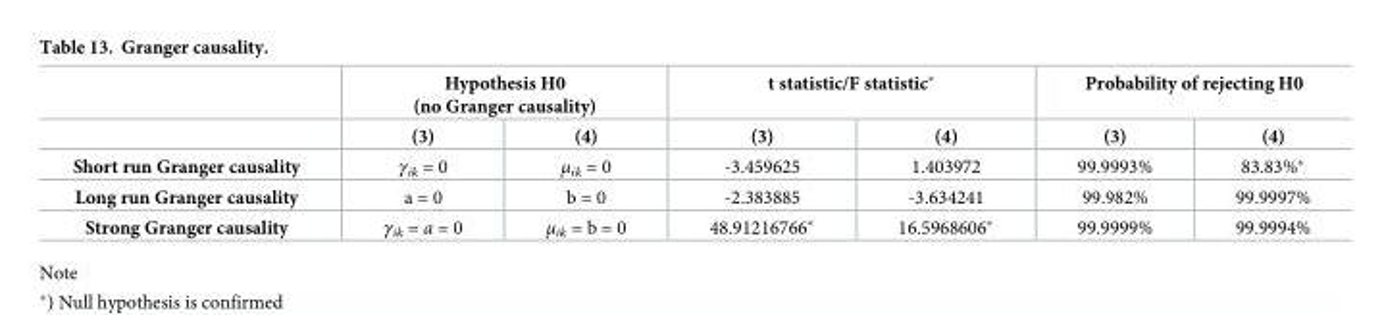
<table><thead><tr><td rowspan="2"></td><td colspan="2">Hypothesis H0 (no Granger causality)</td><td colspan="2">t statistic/F statistic*</td><td colspan="2">Probability of rejecting H0</td></tr><tr><td>(3)</td><td>(4)</td><td>(3)</td><td>(4)</td><td>(3)</td><td>(4)</td></tr></thead><tbody><tr><td>Short run Granger causality</td><td>γ<sub>ik</sub> = 0</td><td>μ<sub>ik</sub> = 0</td><td>-3.459625</td><td>1.403972</td><td>99.9993%</td><td>83.83%*</td></tr><tr><td>Long run Granger causality</td><td>a = 0</td><td>b = 0</td><td>-2.383885</td><td>-3.634241</td><td>99.982%</td><td>99.9997%</td></tr><tr><td>Strong Granger causality</td><td>γ<sub>ik</sub> = a = 0</td><td>μ<sub>ik</sub> = b = 0</td><td>48.91216766*</td><td>16.5968606*</td><td>99.9999%</td><td>99.9994%</td></tr></tbody></table>